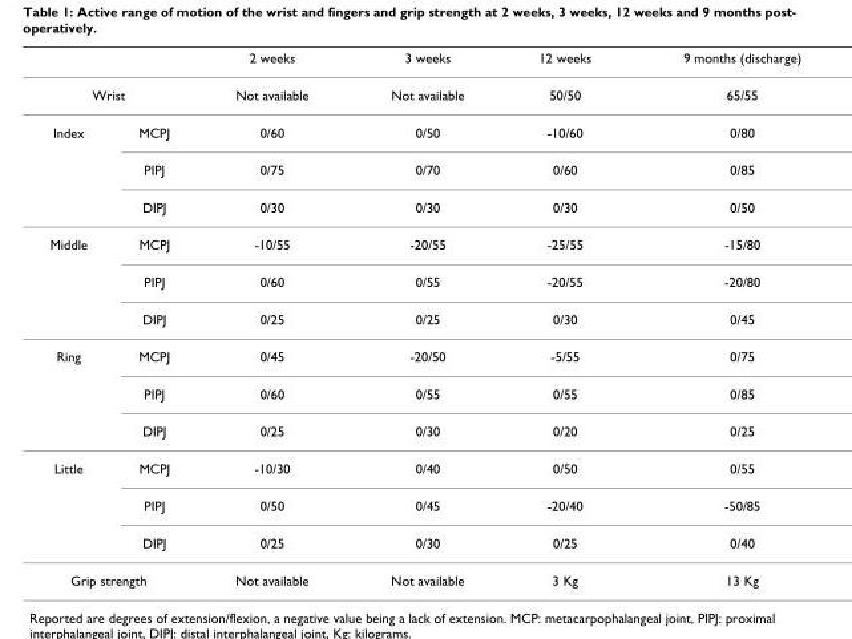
<table><thead><tr><td></td><td></td><td>2 weeks</td><td>3 weeks</td><td>12 weeks</td><td>9 months (discharge)</td></tr></thead><tbody><tr><td colspan="2">Wrist</td><td>Not available</td><td>Not available</td><td>50/50</td><td>65/55</td></tr><tr><td rowspan="3">Index</td><td>MCPJ</td><td>0/60</td><td>0/50</td><td>-10/60</td><td>0/80</td></tr><tr><td>PIPJ</td><td>0/75</td><td>0/70</td><td>0/60</td><td>0/85</td></tr><tr><td>DIPJ</td><td>0/30</td><td>0/30</td><td>0/30</td><td>0/50</td></tr><tr><td rowspan="3">Middle</td><td>MCPJ</td><td>-10/55</td><td>-20/55</td><td>-25/55</td><td>-15/80</td></tr><tr><td>PIPJ</td><td>0/60</td><td>0/55</td><td>-20/55</td><td>-20/80</td></tr><tr><td>DIPJ</td><td>0/25</td><td>0/25</td><td>0/30</td><td>0/45</td></tr><tr><td rowspan="3">Ring</td><td>MCPJ</td><td>0/45</td><td>-20/50</td><td>-5/55</td><td>0/75</td></tr><tr><td>PIPJ</td><td>0/60</td><td>0/55</td><td>0/55</td><td>0/85</td></tr><tr><td>DIPJ</td><td>0/25</td><td>0/30</td><td>0/20</td><td>0/25</td></tr><tr><td rowspan="3">Little</td><td>MCPJ</td><td>-10/30</td><td>0/40</td><td>0/50</td><td>0/55</td></tr><tr><td>PIPJ</td><td>0/50</td><td>0/45</td><td>-20/40</td><td>-50/85</td></tr><tr><td>DIPJ</td><td>0/25</td><td>0/30</td><td>0/25</td><td>0/40</td></tr><tr><td colspan="2">Grip strength</td><td>Not available</td><td>Not available</td><td>3 Kg</td><td>13 Kg</td></tr></tbody></table>